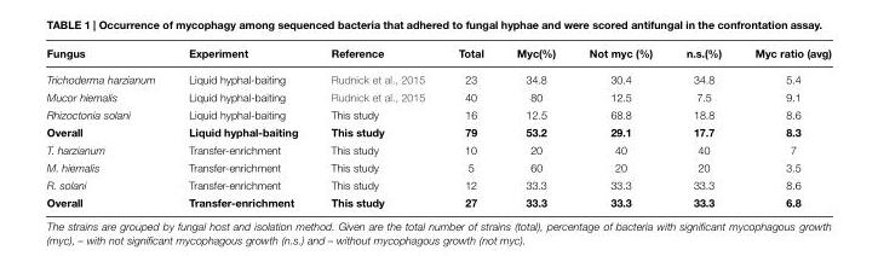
<table><thead><tr><td>Fungus</td><td>Experiment</td><td>Reference</td><td>Total</td><td>Myc(%)</td><td>Not myc (%)</td><td>n.s.(%)</td><td>Myc ratio (avg)</td></tr></thead><tbody><tr><td>Trichoderma harzianum</td><td>Liquid hyphal-baiting</td><td>Rudnick et al., 2015</td><td>23</td><td>34.8</td><td>30.4</td><td>34.8</td><td>5.4</td></tr><tr><td>Mucor hiemalis</td><td>Liquid hyphal-baiting</td><td>Rudnick et al., 2015</td><td>40</td><td>80</td><td>12.5</td><td>7.5</td><td>9.1</td></tr><tr><td>Rhizoctonia solani</td><td>Liquid hyphal-baiting</td><td>This study</td><td>16</td><td>12.5</td><td>68.8</td><td>18.8</td><td>8.6</td></tr><tr><td>Overall</td><td>Liquid hyphal-baiting</td><td>This study</td><td>79</td><td>53.2</td><td>29.1</td><td>17.7</td><td>8.3</td></tr><tr><td>T. harzianum</td><td>Transfer-enrichment</td><td>This study</td><td>10</td><td>20</td><td>40</td><td>40</td><td>7</td></tr><tr><td>M. hiemalis</td><td>Transfer-enrichment</td><td>This study</td><td>5</td><td>60</td><td>20</td><td>20</td><td>3.5</td></tr><tr><td>R. solani</td><td>Transfer-enrichment</td><td>This study</td><td>12</td><td>33.3</td><td>33.3</td><td>33.3</td><td>8.6</td></tr><tr><td>Overall</td><td>Transfer-enrichment</td><td>This study</td><td>27</td><td>33.3</td><td>33.3</td><td>33.3</td><td>6.8</td></tr></tbody></table>